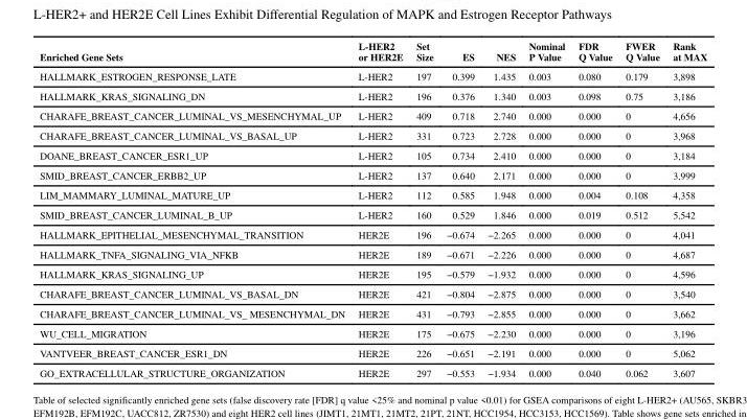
<table><thead><tr><td>Enriched Gene Sets</td><td>L-HER2 or HER2E</td><td>Set Size</td><td>ES</td><td>NES</td><td>Nominal P Value</td><td>FDR Q Value</td><td>FWER Q Value</td><td>Rank at MAX</td></tr></thead><tbody><tr><td>HALLMARK_ESTROGEN_RESPONSE_LATE</td><td>L-HER2</td><td>197</td><td>0.399</td><td>1.435</td><td>0.003</td><td>0.080</td><td>0.179</td><td>3,898</td></tr><tr><td>HALLMARK_KRAS_SIGNALING_DN</td><td>L-HER2</td><td>196</td><td>0.376</td><td>1.340</td><td>0.003</td><td>0.098</td><td>0.75</td><td>3,186</td></tr><tr><td>CHARAFE_BREAST_CANCER_LUMINAL_VS_MESENCHYMAL_UP</td><td>L-HER2</td><td>409</td><td>0.718</td><td>2.740</td><td>0.000</td><td>0.000</td><td>0</td><td>4,656</td></tr><tr><td>CHARAFE_BREAST_CANCER_LUMINAL_VS_BASAL_UP</td><td>L-HER2</td><td>331</td><td>0.723</td><td>2.728</td><td>0.000</td><td>0.000</td><td>0</td><td>3,968</td></tr><tr><td>DOANE_BREAST_CANCER_ESR1_UP</td><td>L-HER2</td><td>105</td><td>0.734</td><td>2.410</td><td>0.000</td><td>0.000</td><td>0</td><td>3,184</td></tr><tr><td>SMID_BREAST_CANCER_ERBB2_UP</td><td>L-HER2</td><td>137</td><td>0.640</td><td>2.171</td><td>0.000</td><td>0.000</td><td>0</td><td>3,999</td></tr><tr><td>LIM_MAMMARY_LUMINAL_MATURE_UP</td><td>L-HER2</td><td>112</td><td>0.585</td><td>1.948</td><td>0.000</td><td>0.004</td><td>0.108</td><td>4,358</td></tr><tr><td>SMID_BREAST_CANCER_LUMINAL_B_UP</td><td>L-HER2</td><td>160</td><td>0.529</td><td>1.846</td><td>0.000</td><td>0.019</td><td>0.512</td><td>5,542</td></tr><tr><td>HALLMARK_EPITHELIAL_MESENCHYMAL_TRANSITION</td><td>HER2E</td><td>196</td><td>−0.674</td><td>−2.265</td><td>0.000</td><td>0.000</td><td>0</td><td>4,041</td></tr><tr><td>HALLMARK_TNFA_SIGNALING_VIA_NFKB</td><td>HER2E</td><td>189</td><td>−0.671</td><td>−2.226</td><td>0.000</td><td>0.000</td><td>0</td><td>4,687</td></tr><tr><td>HALLMARK_KRAS_SIGNALING_UP</td><td>HER2E</td><td>195</td><td>−0.579</td><td>−1.932</td><td>0.000</td><td>0.000</td><td>0</td><td>4,596</td></tr><tr><td>CHARAFE_BREAST_CANCER_LUMINAL_VS_BASAL_DN</td><td>HER2E</td><td>421</td><td>−0.804</td><td>−2.875</td><td>0.000</td><td>0.000</td><td>0</td><td>3,540</td></tr><tr><td>CHARAFE_BREAST_CANCER_LUMINAL_VS_ MESENCHYMAL_DN</td><td>HER2E</td><td>431</td><td>−0.793</td><td>−2.855</td><td>0.000</td><td>0.000</td><td>0</td><td>3,662</td></tr><tr><td>WU_CELL_MIGRATION</td><td>HER2E</td><td>175</td><td>−0.675</td><td>−2.230</td><td>0.000</td><td>0.000</td><td>0</td><td>3,196</td></tr><tr><td>VANTVEER_BREAST_CANCER_ESR1_DN</td><td>HER2E</td><td>226</td><td>−0.651</td><td>−2.191</td><td>0.000</td><td>0.000</td><td>0</td><td>5,062</td></tr><tr><td>GO_EXTRACELLULAR_STRUCTURE_ORGANIZATION</td><td>HER2E</td><td>297</td><td>−0.553</td><td>−1.934</td><td>0.000</td><td>0.040</td><td>0.062</td><td>3,607</td></tr></tbody></table>